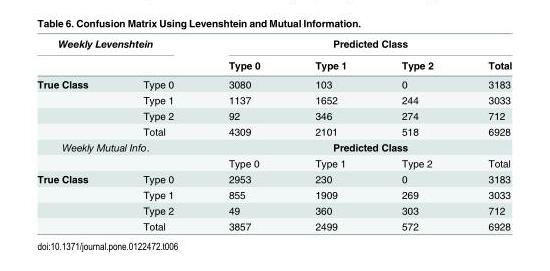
<table><thead><tr><td colspan="2">Weekly Levenshtein</td><td colspan="4">Predicted Class</td></tr><tr><td></td><td></td><td>Type 0</td><td>Type 1</td><td>Type 2</td><td>Total</td></tr></thead><tbody><tr><td rowspan="4">True Class</td><td>Type 0</td><td>3080</td><td>103</td><td>0</td><td>3183</td></tr><tr><td>Type 1</td><td>1137</td><td>1652</td><td>244</td><td>3033</td></tr><tr><td>Type 2</td><td>92</td><td>346</td><td>274</td><td>712</td></tr><tr><td>Total</td><td>4309</td><td>2101</td><td>518</td><td>6928</td></tr><tr><td colspan="2">Weekly Mutual Info.</td><td colspan="4">Predicted Class</td></tr><tr><td></td><td></td><td>Type 0</td><td>Type 1</td><td>Type 2</td><td>Total</td></tr><tr><td rowspan="4">True Class</td><td>Type 0</td><td>2953</td><td>230</td><td>0</td><td>3183</td></tr><tr><td>Type 1</td><td>855</td><td>1909</td><td>269</td><td>3033</td></tr><tr><td>Type 2</td><td>49</td><td>360</td><td>303</td><td>712</td></tr><tr><td>Total</td><td>3857</td><td>2499</td><td>572</td><td>6928</td></tr></tbody></table>